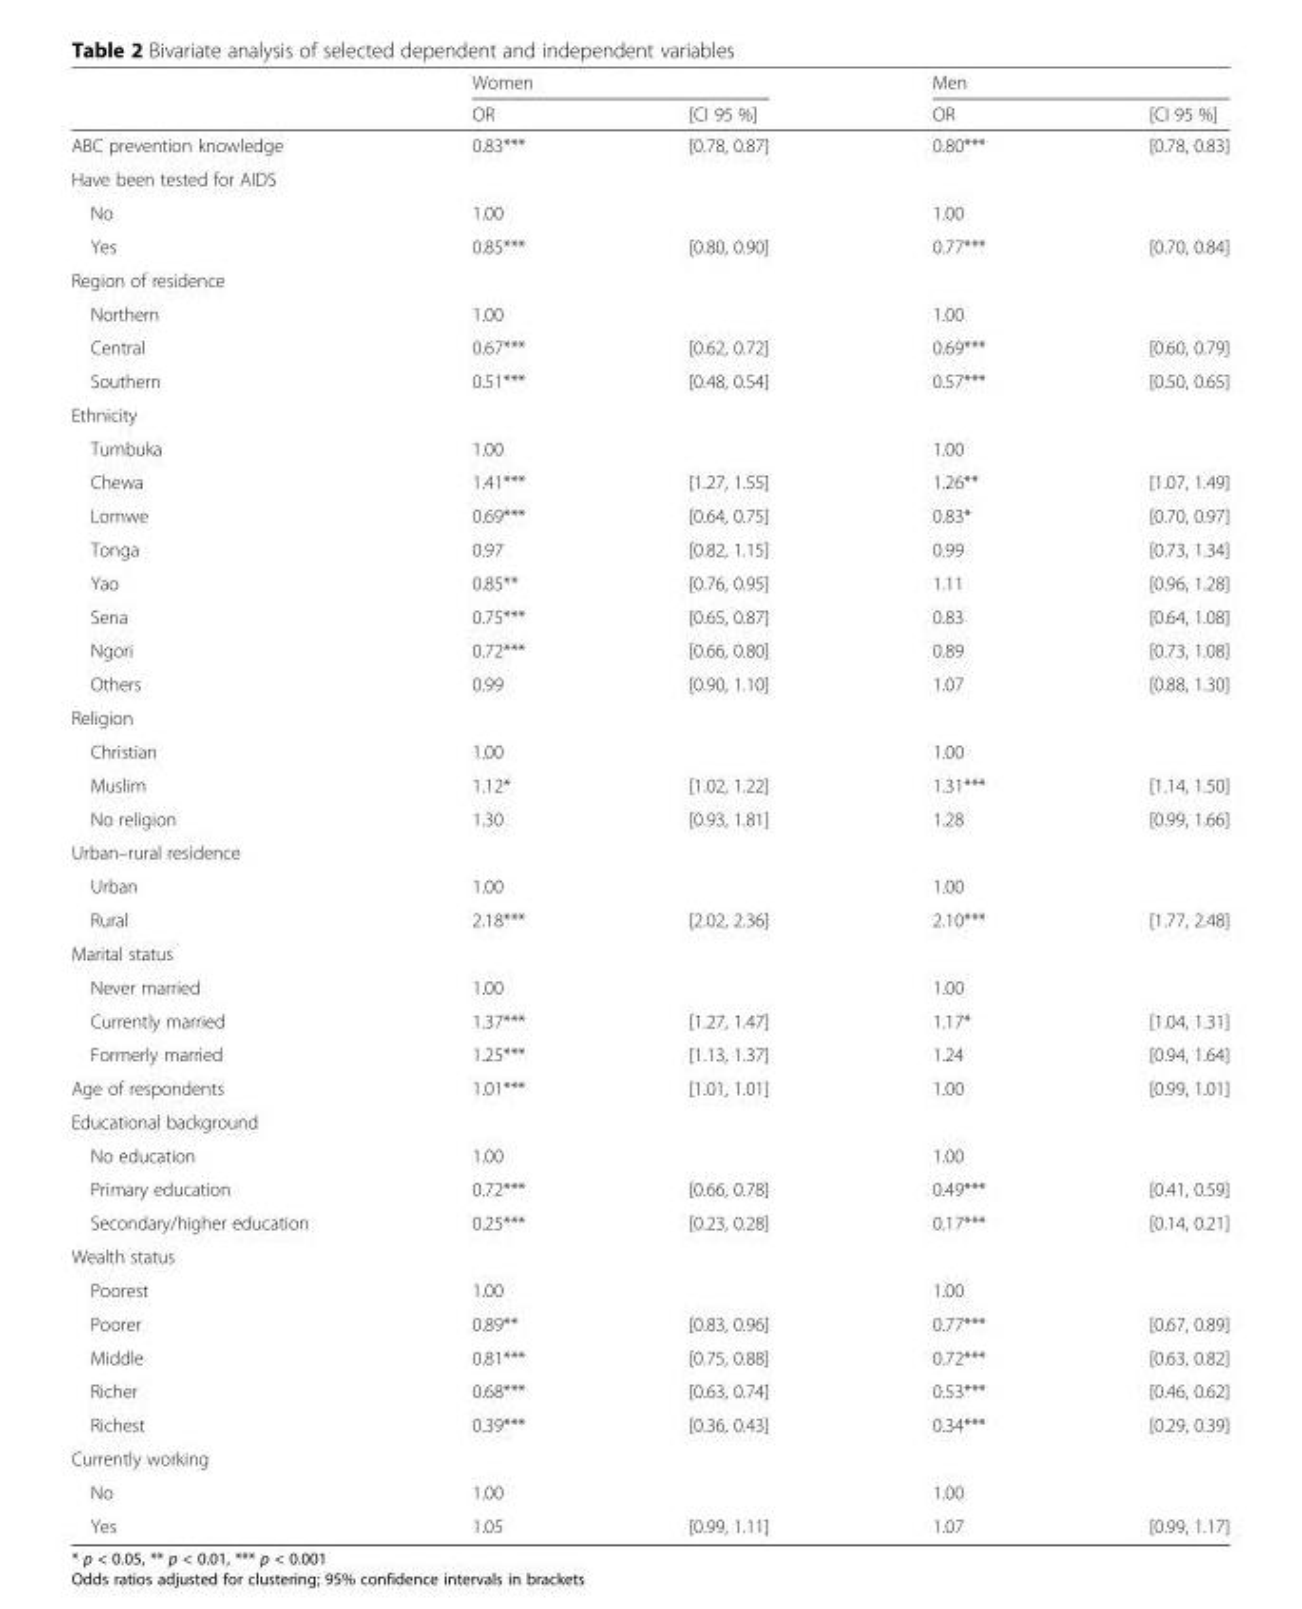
<table><thead><tr><td rowspan="2"></td><td colspan="2">Women</td><td colspan="2">Men</td></tr><tr><td>OR</td><td>[CI 95 %]</td><td>OR</td><td>[CI 95 %]</td></tr></thead><tbody><tr><td>ABC prevention knowledge</td><td>0.83***</td><td>[0.78, 0.87]</td><td>0.80***</td><td>[0.78, 0.83]</td></tr><tr><td colspan="5">Have been tested for AIDS</td></tr><tr><td>No</td><td colspan="2">1.00</td><td colspan="2">1.00</td></tr><tr><td>Yes</td><td>0.85***</td><td>[0.80, 0.90]</td><td>0.77***</td><td>[0.70, 0.84]</td></tr><tr><td colspan="5">Region of residence</td></tr><tr><td>Northern</td><td colspan="2">1.00</td><td colspan="2">1.00</td></tr><tr><td>Central</td><td>0.67***</td><td>[0.62, 0.72]</td><td>0.69***</td><td>[0.60, 0.79]</td></tr><tr><td>Southern</td><td>0.51***</td><td>[0.48, 0.54]</td><td>0.57***</td><td>[0.50, 0.65]</td></tr><tr><td colspan="5">Ethnicity</td></tr><tr><td>Tumbuka</td><td colspan="2">1.00</td><td colspan="2">1.00</td></tr><tr><td>Chewa</td><td>1.41***</td><td>[1.27, 1.55]</td><td>1.26**</td><td>[1.07, 1.49]</td></tr><tr><td>Lomwe</td><td>0.69***</td><td>[0.64, 0.75]</td><td>0.83*</td><td>[0.70, 0.97]</td></tr><tr><td>Tonga</td><td>0.97</td><td>[0.82, 1.15]</td><td>0.99</td><td>[0.73, 1.34]</td></tr><tr><td>Yao</td><td>0.85**</td><td>[0.76, 0.95]</td><td>1.11</td><td>[0.96, 1.28]</td></tr><tr><td>Sena</td><td>0.75***</td><td>[0.65, 0.87]</td><td>0.83</td><td>[0.64, 1.08]</td></tr><tr><td>Ngori</td><td>0.72***</td><td>[0.66, 0.80]</td><td>0.89</td><td>[0.73, 1.08]</td></tr><tr><td>Others</td><td>0.99</td><td>[0.90, 1.10]</td><td>1.07</td><td>[0.88, 1.30]</td></tr><tr><td colspan="5">Religion</td></tr><tr><td>Christian</td><td colspan="2">1.00</td><td colspan="2">1.00</td></tr><tr><td>Muslim</td><td>1.12*</td><td>[1.02, 1.22]</td><td>1.31***</td><td>[1.14, 1.50]</td></tr><tr><td>No religion</td><td>1.30</td><td>[0.93, 1.81]</td><td>1.28</td><td>[0.99, 1.66]</td></tr><tr><td colspan="5">Urban–rural residence</td></tr><tr><td>Urban</td><td colspan="2">1.00</td><td colspan="2">1.00</td></tr><tr><td>Rural</td><td>2.18***</td><td>[2.02, 2.36]</td><td>2.10***</td><td>[1.77, 2.48]</td></tr><tr><td colspan="5">Marital status</td></tr><tr><td>Never married</td><td colspan="2">1.00</td><td colspan="2">1.00</td></tr><tr><td>Currently married</td><td>1.37***</td><td>[1.27, 1.47]</td><td>1.17*</td><td>[1.04, 1.31]</td></tr><tr><td>Formerly married</td><td>1.25***</td><td>[1.13, 1.37]</td><td>1.24</td><td>[0.94, 1.64]</td></tr><tr><td>Age of respondents</td><td>1.01***</td><td>[1.01, 1.01]</td><td>1.00</td><td>[0.99, 1.01]</td></tr><tr><td colspan="5">Educational background</td></tr><tr><td>No education</td><td colspan="2">1.00</td><td colspan="2">1.00</td></tr><tr><td>Primary education</td><td>0.72***</td><td>[0.66, 0.78]</td><td>0.49***</td><td>[0.41, 0.59]</td></tr><tr><td>Secondary/higher education</td><td>0.25***</td><td>[0.23, 0.28]</td><td>0.17***</td><td>[0.14, 0.21]</td></tr><tr><td colspan="5">Wealth status</td></tr><tr><td>Poorest</td><td colspan="2">1.00</td><td colspan="2">1.00</td></tr><tr><td>Poorer</td><td>0.89**</td><td>[0.83, 0.96]</td><td>0.77***</td><td>[0.67, 0.89]</td></tr><tr><td>Middle</td><td>0.81***</td><td>[0.75, 0.88]</td><td>0.72***</td><td>[0.63, 0.82]</td></tr><tr><td>Richer</td><td>0.68***</td><td>[0.63, 0.74]</td><td>0.53***</td><td>[0.46, 0.62]</td></tr><tr><td>Richest</td><td>0.39***</td><td>[0.36, 0.43]</td><td>0.34***</td><td>[0.29, 0.39]</td></tr><tr><td colspan="5">Currently working</td></tr><tr><td>No</td><td colspan="2">1.00</td><td colspan="2">1.00</td></tr><tr><td>Yes</td><td>1.05</td><td>[0.99, 1.11]</td><td>1.07</td><td>[0.99, 1.17]</td></tr></tbody></table>